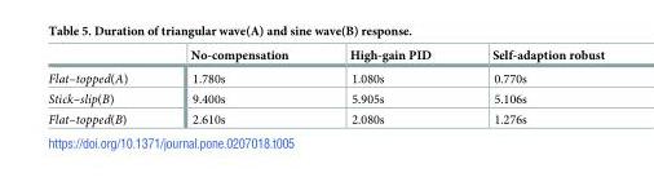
<table><thead><tr><td></td><td>No-compensation</td><td>High-gain PID</td><td>Self-adaption robust</td></tr></thead><tbody><tr><td>Flat–topped(A)</td><td>1.780s</td><td>1.080s</td><td>0.770s</td></tr><tr><td>Stick–slip(B)</td><td>9.400s</td><td>5.905s</td><td>5.106s</td></tr><tr><td>Flat–topped(B)</td><td>2.610s</td><td>2.080s</td><td>1.276s</td></tr></tbody></table>